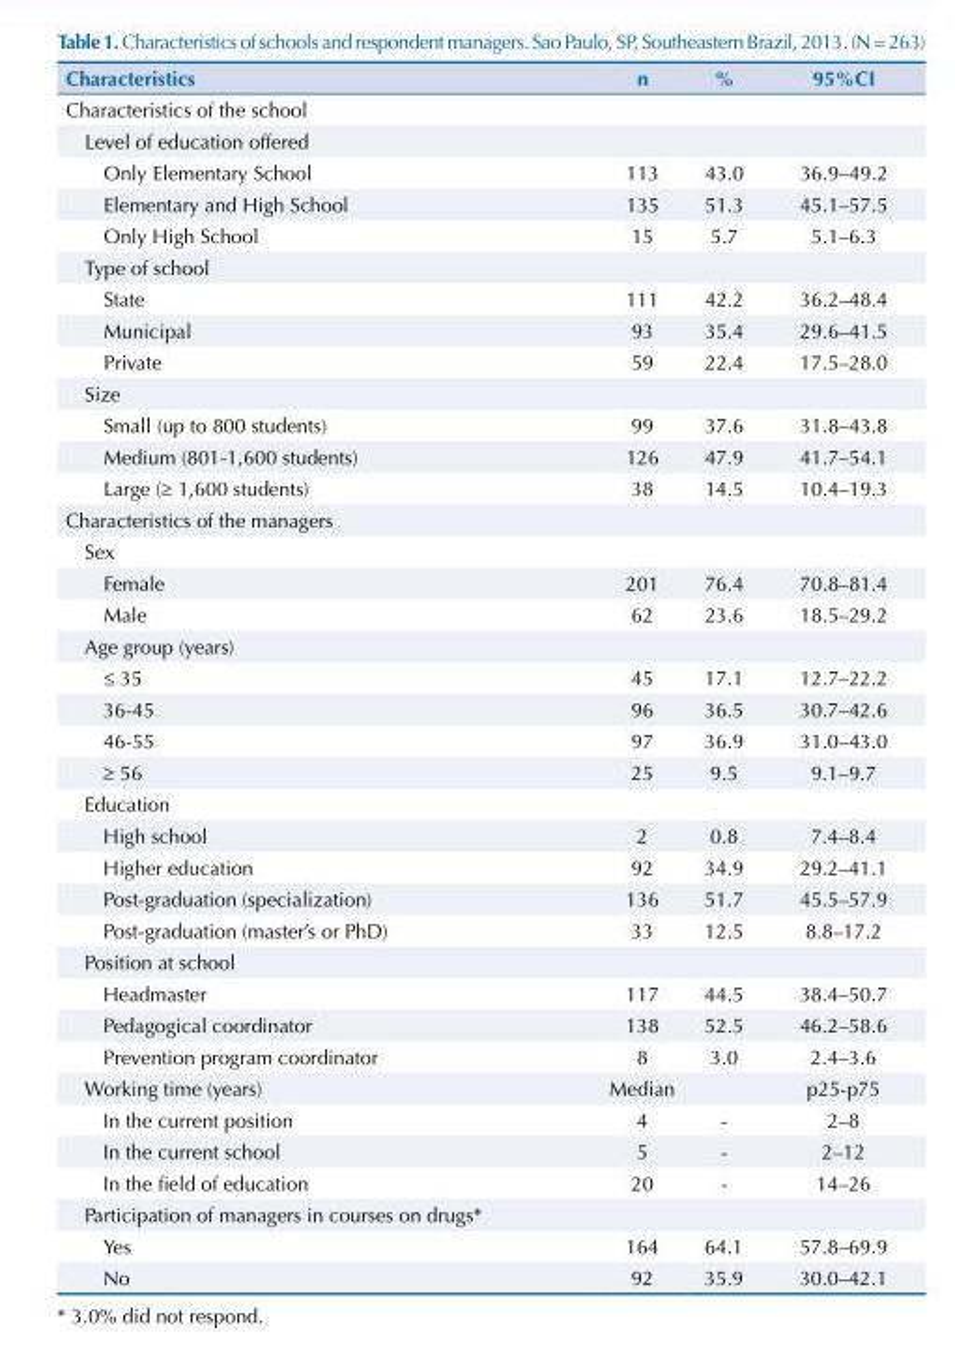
<table><thead><tr><td>Characteristics</td><td>n</td><td>%</td><td>95%CI</td></tr></thead><tbody><tr><td colspan="4">Characteristics of the school</td></tr><tr><td colspan="4">Level of education offered</td></tr><tr><td>Only Elementary School</td><td>113</td><td>43.0</td><td>36.9–49.2</td></tr><tr><td>Elementary and High School</td><td>135</td><td>51.3</td><td>45.1–57.5</td></tr><tr><td>Only High School</td><td>15</td><td>5.7</td><td>5.1–6.3</td></tr><tr><td colspan="4">Type of school</td></tr><tr><td>State</td><td>111</td><td>42.2</td><td>36.2–48.4</td></tr><tr><td>Municipal</td><td>93</td><td>35.4</td><td>29.6–41.5</td></tr><tr><td>Private</td><td>59</td><td>22.4</td><td>17.5–28.0</td></tr><tr><td colspan="4">Size</td></tr><tr><td>Small (up to 800 students)</td><td>99</td><td>37.6</td><td>31.8–43.8</td></tr><tr><td>Medium (801-1,600 students)</td><td>126</td><td>47.9</td><td>41.7–54.1</td></tr><tr><td>Large (≥ 1,600 students)</td><td>38</td><td>14.5</td><td>10.4–19.3</td></tr><tr><td colspan="4">Characteristics of the managers</td></tr><tr><td colspan="4">Sex</td></tr><tr><td>Female</td><td>201</td><td>76.4</td><td>70.8–81.4</td></tr><tr><td>Male</td><td>62</td><td>23.6</td><td>18.5–29.2</td></tr><tr><td colspan="4">Age group (years)</td></tr><tr><td>≤ 35</td><td>45</td><td>17.1</td><td>12.7–22.2</td></tr><tr><td>36-45</td><td>96</td><td>36.5</td><td>30.7–42.6</td></tr><tr><td>46-55</td><td>97</td><td>36.9</td><td>31.0–43.0</td></tr><tr><td>≥ 56</td><td>25</td><td>9.5</td><td>9.1–9.7</td></tr><tr><td colspan="4">Education</td></tr><tr><td>High school</td><td>2</td><td>0.8</td><td>7.4–8.4</td></tr><tr><td>Higher education</td><td>92</td><td>34.9</td><td>29.2–41.1</td></tr><tr><td>Post-graduation (specialization)</td><td>136</td><td>51.7</td><td>45.5–57.9</td></tr><tr><td>Post-graduation (master’s or PhD)</td><td>33</td><td>12.5</td><td>8.8–17.2</td></tr><tr><td colspan="4">Position at school</td></tr><tr><td>Headmaster</td><td>117</td><td>44.5</td><td>38.4–50.7</td></tr><tr><td>Pedagogical coordinator</td><td>138</td><td>52.5</td><td>46.2–58.6</td></tr><tr><td>Prevention program coordinator</td><td>8</td><td>3.0</td><td>2.4–3.6</td></tr><tr><td>Working time (years)</td><td>Median</td><td></td><td>p25-p75</td></tr><tr><td>In the current position</td><td>4</td><td>-</td><td>2–8</td></tr><tr><td>In the current school</td><td>5</td><td>-</td><td>2–12</td></tr><tr><td>In the field of education</td><td>20</td><td>-</td><td>14–26</td></tr><tr><td colspan="4">Participation of managers in courses on drugs*</td></tr><tr><td>Yes</td><td>164</td><td>64.1</td><td>57.8–69.9</td></tr><tr><td>No</td><td>92</td><td>35.9</td><td>30.0–42.1</td></tr></tbody></table>